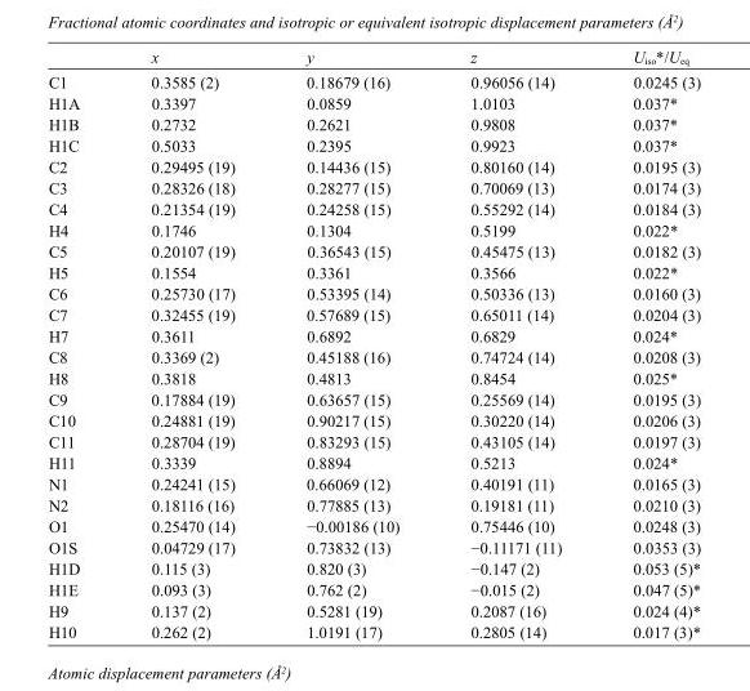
<table><thead><tr><td></td><td>x</td><td>y</td><td>z</td><td>U<sub>iso</sub>*/U<sub>eq</sub></td></tr></thead><tbody><tr><td>C1</td><td>0.3585 (2)</td><td>0.18679 (16)</td><td>0.96056 (14)</td><td>0.0245 (3)</td></tr><tr><td>H1A</td><td>0.3397</td><td>0.0859</td><td>1.0103</td><td>0.037*</td></tr><tr><td>H1B</td><td>0.2732</td><td>0.2621</td><td>0.9808</td><td>0.037*</td></tr><tr><td>H1C</td><td>0.5033</td><td>0.2395</td><td>0.9923</td><td>0.037*</td></tr><tr><td>C2</td><td>0.29495 (19)</td><td>0.14436 (15)</td><td>0.80160 (14)</td><td>0.0195 (3)</td></tr><tr><td>C3</td><td>0.28326 (18)</td><td>0.28277 (15)</td><td>0.70069 (13)</td><td>0.0174 (3)</td></tr><tr><td>C4</td><td>0.21354 (19)</td><td>0.24258 (15)</td><td>0.55292 (14)</td><td>0.0184 (3)</td></tr><tr><td>H4</td><td>0.1746</td><td>0.1304</td><td>0.5199</td><td>0.022*</td></tr><tr><td>C5</td><td>0.20107 (19)</td><td>0.36543 (15)</td><td>0.45475 (13)</td><td>0.0182 (3)</td></tr><tr><td>H5</td><td>0.1554</td><td>0.3361</td><td>0.3566</td><td>0.022*</td></tr><tr><td>C6</td><td>0.25730 (17)</td><td>0.53395 (14)</td><td>0.50336 (13)</td><td>0.0160 (3)</td></tr><tr><td>C7</td><td>0.32455 (19)</td><td>0.57689 (15)</td><td>0.65011 (14)</td><td>0.0204 (3)</td></tr><tr><td>H7</td><td>0.3611</td><td>0.6892</td><td>0.6829</td><td>0.024*</td></tr><tr><td>C8</td><td>0.3369 (2)</td><td>0.45188 (16)</td><td>0.74724 (14)</td><td>0.0208 (3)</td></tr><tr><td>H8</td><td>0.3818</td><td>0.4813</td><td>0.8454</td><td>0.025*</td></tr><tr><td>C9</td><td>0.17884 (19)</td><td>0.63657 (15)</td><td>0.25569 (14)</td><td>0.0195 (3)</td></tr><tr><td>C10</td><td>0.24881 (19)</td><td>0.90217 (15)</td><td>0.30220 (14)</td><td>0.0206 (3)</td></tr><tr><td>C11</td><td>0.28704 (19)</td><td>0.83293 (15)</td><td>0.43105 (14)</td><td>0.0197 (3)</td></tr><tr><td>H11</td><td>0.3339</td><td>0.8894</td><td>0.5213</td><td>0.024*</td></tr><tr><td>N1</td><td>0.24241 (15)</td><td>0.66069 (12)</td><td>0.40191 (11)</td><td>0.0165 (3)</td></tr><tr><td>N2</td><td>0.18116 (16)</td><td>0.77885 (13)</td><td>0.19181 (11)</td><td>0.0210 (3)</td></tr><tr><td>O1</td><td>0.25470 (14)</td><td>−0.00186 (10)</td><td>0.75446 (10)</td><td>0.0248 (3)</td></tr><tr><td>O1S</td><td>0.04729 (17)</td><td>0.73832 (13)</td><td>−0.11171 (11)</td><td>0.0353 (3)</td></tr><tr><td>H1D</td><td>0.115 (3)</td><td>0.820 (3)</td><td>−0.147 (2)</td><td>0.053 (5)*</td></tr><tr><td>H1E</td><td>0.093 (3)</td><td>0.762 (2)</td><td>−0.015 (2)</td><td>0.047 (5)*</td></tr><tr><td>H9</td><td>0.137 (2)</td><td>0.5281 (19)</td><td>0.2087 (16)</td><td>0.024 (4)*</td></tr><tr><td>H10</td><td>0.262 (2)</td><td>1.0191 (17)</td><td>0.2805 (14)</td><td>0.017 (3)*</td></tr></tbody></table>